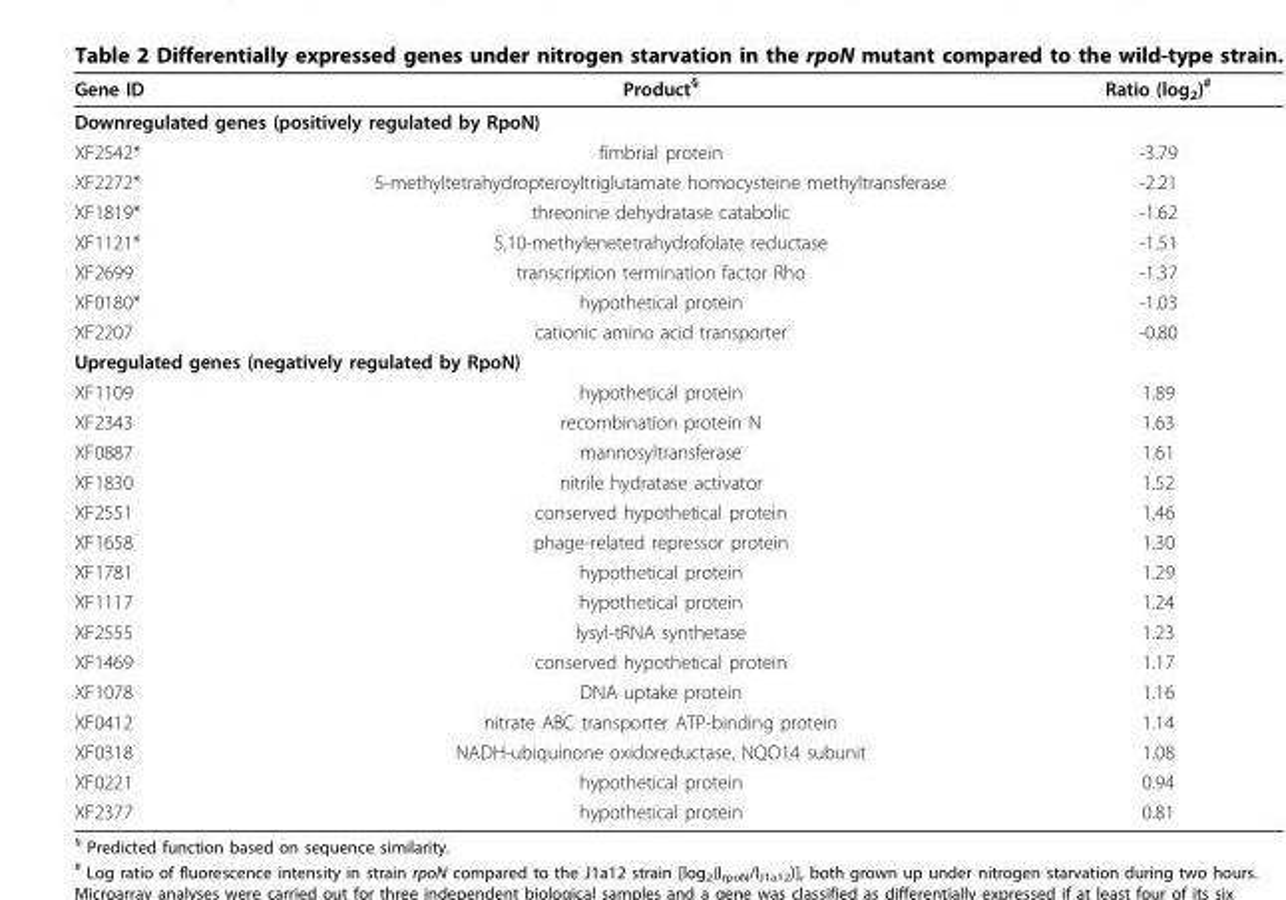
<table><thead><tr><td>Gene ID</td><td>Product<sup>§</sup></td><td>Ratio (log<sub>2</sub>)<sup>#</sup></td></tr></thead><tbody><tr><td colspan="3">Downregulated genes (positively regulated by RpoN)</td></tr><tr><td>XF2542*</td><td>fimbrial protein</td><td>-3.79</td></tr><tr><td>XF2272*</td><td>5-methyltetrahydropteroyltriglutamate homocysteine methyltransferase</td><td>-2.21</td></tr><tr><td>XF1819*</td><td>threonine dehydratase catabolic</td><td>-1.62</td></tr><tr><td>XF1121*</td><td>5,10-methylenetetrahydrofolate reductase</td><td>-1.51</td></tr><tr><td>XF2699</td><td>transcription termination factor Rho</td><td>-1.37</td></tr><tr><td>XF0180*</td><td>hypothetical protein</td><td>-1.03</td></tr><tr><td>XF2207</td><td>cationic amino acid transporter</td><td>-0.80</td></tr><tr><td colspan="3">Upregulated genes (negatively regulated by RpoN)</td></tr><tr><td>XF1109</td><td>hypothetical protein</td><td>1.89</td></tr><tr><td>XF2343</td><td>recombination protein N</td><td>1.63</td></tr><tr><td>XF0887</td><td>mannosyltransferase</td><td>1.61</td></tr><tr><td>XF1830</td><td>nitrile hydratase activator</td><td>1.52</td></tr><tr><td>XF2551</td><td>conserved hypothetical protein</td><td>1.46</td></tr><tr><td>XF1658</td><td>phage-related repressor protein</td><td>1.30</td></tr><tr><td>XF1781</td><td>hypothetical protein</td><td>1.29</td></tr><tr><td>XF1117</td><td>hypothetical protein</td><td>1.24</td></tr><tr><td>XF2555</td><td>lysyl-tRNA synthetase</td><td>1.23</td></tr><tr><td>XF1469</td><td>conserved hypothetical protein</td><td>1.17</td></tr><tr><td>XF1078</td><td>DNA uptake protein</td><td>1.16</td></tr><tr><td>XF0412</td><td>nitrate ABC transporter ATP-binding protein</td><td>1.14</td></tr><tr><td>XF0318</td><td>NADH-ubiquinone oxidoreductase, NQO14 subunit</td><td>1.08</td></tr><tr><td>XF0221</td><td>hypothetical protein</td><td>0.94</td></tr><tr><td>XF2377</td><td>hypothetical protein</td><td>0.81</td></tr></tbody></table>